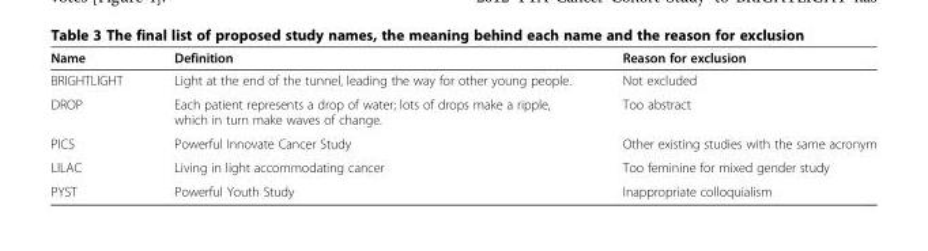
<table><thead><tr><td>Name</td><td>Definition</td><td>Reason for exclusion</td></tr></thead><tbody><tr><td>BRIGHTLIGHT</td><td>Light at the end of the tunnel, leading the way for other young people.</td><td>Not excluded</td></tr><tr><td>DROP</td><td>Each patient represents a drop of water; lots of drops make a ripple, which in turn make waves of change.</td><td>Too abstract</td></tr><tr><td>PICS</td><td>Powerful Innovate Cancer Study</td><td>Other existing studies with the same acronym</td></tr><tr><td>LILAC</td><td>Living in light accommodating cancer</td><td>Too feminine for mixed gender study</td></tr><tr><td>PYST</td><td>Powerful Youth Study</td><td>Inappropriate colloquialism</td></tr></tbody></table>